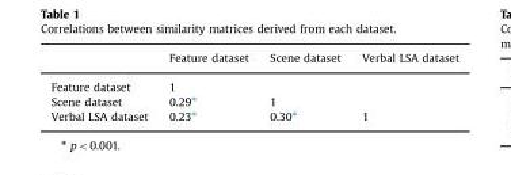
<table><thead><tr><td></td><td>Feature dataset</td><td>Scene dataset</td><td>Verbal LSA dataset</td></tr></thead><tbody><tr><td>Feature dataset</td><td>1</td><td></td><td></td></tr><tr><td>Scene dataset</td><td>0.29⁎</td><td>1</td><td></td></tr><tr><td>Verbal LSA dataset</td><td>0.23⁎</td><td>0.30⁎</td><td>1</td></tr></tbody></table>